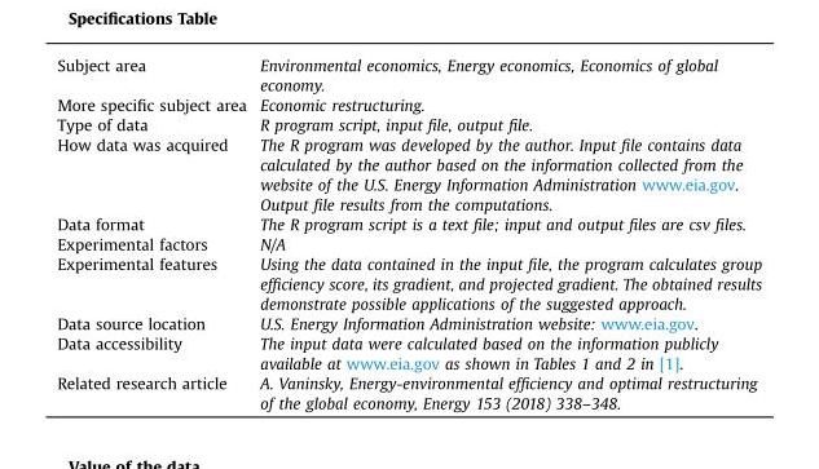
<table><tbody><tr><td>Subject area</td><td>Environmental economics, Energy economics, Economics of global economy.</td></tr><tr><td>More specific subject area</td><td>Economic restructuring.</td></tr><tr><td>Type of data</td><td>R program script, input file, output file.</td></tr><tr><td>How data was acquired</td><td>The R program was developed by the author. Input file contains data calculated by the author based on the information collected from the website of the U.S. Energy Information Administration www.eia.gov. Output file results from the computations.</td></tr><tr><td>Data format</td><td>The R program script is a text file; input and output files are csv files.</td></tr><tr><td>Experimental factors</td><td>N/A</td></tr><tr><td>Experimental features</td><td>Using the data contained in the input file, the program calculates group efficiency score, its gradient, and projected gradient. The obtained results demonstrate possible applications of the suggested approach.</td></tr><tr><td>Data source location</td><td>U.S. Energy Information Administration website: www.eia.gov.</td></tr><tr><td>Data accessibility</td><td>The input data were calculated based on the information publicly available at www.eia.gov as shown in Tables 1 and 2 in [1].</td></tr><tr><td>Related research article</td><td>A. Vaninsky, Energy-environmental efficiency and optimal restructuring of the global economy, Energy 153 (2018) 338–348.</td></tr></tbody></table>